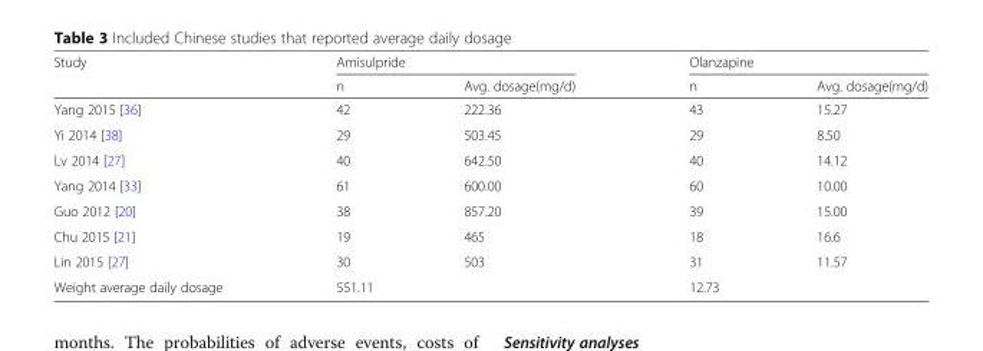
<table><thead><tr><td rowspan="2">Study</td><td colspan="2">Amisulpride</td><td colspan="2">Olanzapine</td></tr><tr><td>n</td><td>Avg. dosage(mg/d)</td><td>n</td><td>Avg. dosage(mg/d)</td></tr></thead><tbody><tr><td>Yang 2015 [36]</td><td>42</td><td>222.36</td><td>43</td><td>15.27</td></tr><tr><td>Yi 2014 [38]</td><td>29</td><td>503.45</td><td>29</td><td>8.50</td></tr><tr><td>Lv 2014 [27]</td><td>40</td><td>642.50</td><td>40</td><td>14.12</td></tr><tr><td>Yang 2014 [33]</td><td>61</td><td>600.00</td><td>60</td><td>10.00</td></tr><tr><td>Guo 2012 [20]</td><td>38</td><td>857.20</td><td>39</td><td>15.00</td></tr><tr><td>Chu 2015 [21]</td><td>19</td><td>465</td><td>18</td><td>16.6</td></tr><tr><td>Lin 2015 [27]</td><td>30</td><td>503</td><td>31</td><td>11.57</td></tr><tr><td>Weight average daily dosage</td><td colspan="2">551.11</td><td colspan="2">12.73</td></tr></tbody></table>